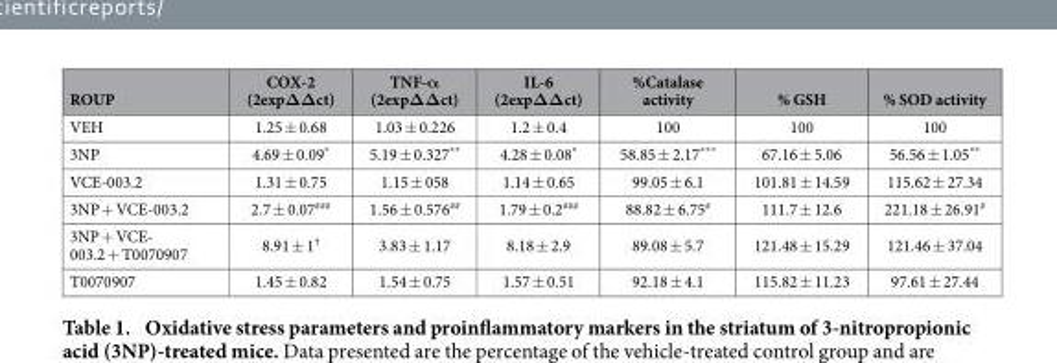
<table><thead><tr><td>ROUP</td><td>COX-2 (2expΔΔct)</td><td>TNF-α (2expΔΔct)</td><td>IL-6 (2expΔΔct)</td><td>%Catalase activity</td><td>% GSH</td><td>% SOD activity</td></tr></thead><tbody><tr><td>VEH</td><td>1.25 ± 0.68</td><td>1.03 ± 0.226</td><td>1.2 ± 0.4</td><td>100</td><td>100</td><td>100</td></tr><tr><td>3NP</td><td>4.69 ± 0.09*</td><td>5.19 ± 0.327**</td><td>4.28 ± 0.08*</td><td>58.85 ± 2.17***</td><td>67.16 ± 5.06</td><td>56.56 ± 1.05**</td></tr><tr><td>VCE-003.2</td><td>1.31 ± 0.75</td><td>1.15 ± 058</td><td>1.14 ± 0.65</td><td>99.05 ± 6.1</td><td>101.81 ± 14.59</td><td>115.62 ± 27.34</td></tr><tr><td>3NP + VCE-003.2</td><td>2.7 ± 0.07<sup>###</sup></td><td>1.56 ± 0.576<sup>##</sup></td><td>1.79 ± 0.2<sup>###</sup></td><td>88.82 ± 6.75<sup>#</sup></td><td>111.7 ± 12.6</td><td>221.18 ± 26.91<sup>#</sup></td></tr><tr><td>3NP + VCE- 003.2 + T0070907</td><td>8.91 ± 1<sup>†</sup></td><td>3.83 ± 1.17</td><td>8.18 ± 2.9</td><td>89.08 ± 5.7</td><td>121.48 ± 15.29</td><td>121.46 ± 37.04</td></tr><tr><td>T0070907</td><td>1.45 ± 0.82</td><td>1.54 ± 0.75</td><td>1.57 ± 0.51</td><td>92.18 ± 4.1</td><td>115.82 ± 11.23</td><td>97.61 ± 27.44</td></tr></tbody></table>